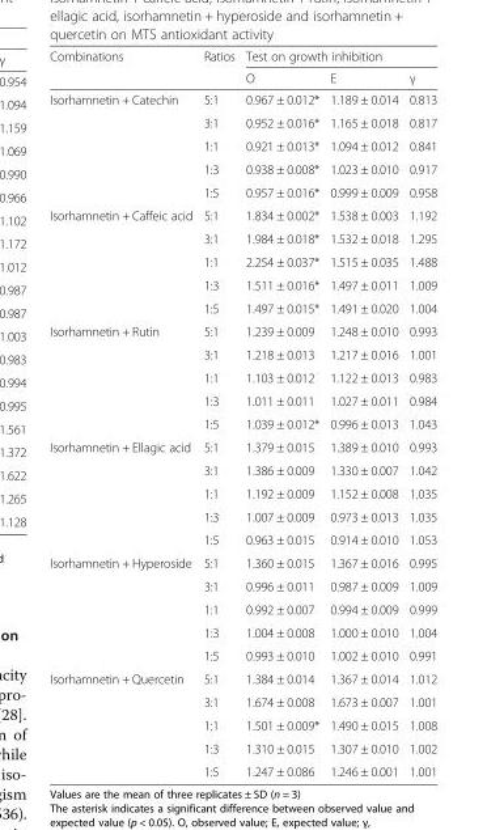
<table><thead><tr><td rowspan="2">Combinations</td><td rowspan="2">Ratios</td><td colspan="3">Test on growth inhibition</td></tr><tr><td>O</td><td>E</td><td>γ</td></tr></thead><tbody><tr><td rowspan="5">Isorhamnetin + Catechin</td><td>5:1</td><td>0.967 ± 0.012*</td><td>1.189 ± 0.014</td><td>0.813</td></tr><tr><td>3:1</td><td>0.952 ± 0.016*</td><td>1.165 ± 0.018</td><td>0.817</td></tr><tr><td>1:1</td><td>0.921 ± 0.013*</td><td>1.094 ± 0.012</td><td>0.841</td></tr><tr><td>1:3</td><td>0.938 ± 0.008*</td><td>1.023 ± 0.010</td><td>0.917</td></tr><tr><td>1:5</td><td>0.957 ± 0.016*</td><td>0.999 ± 0.009</td><td>0.958</td></tr><tr><td rowspan="5">Isorhamnetin + Caffeic acid</td><td>5:1</td><td>1.834 ± 0.002*</td><td>1.538 ± 0.003</td><td>1.192</td></tr><tr><td>3:1</td><td>1.984 ± 0.018*</td><td>1.532 ± 0.018</td><td>1.295</td></tr><tr><td>1:1</td><td>2.254 ± 0.037*</td><td>1.515 ± 0.035</td><td>1.488</td></tr><tr><td>1:3</td><td>1.511 ± 0.016*</td><td>1.497 ± 0.011</td><td>1.009</td></tr><tr><td>1:5</td><td>1.497 ± 0.015*</td><td>1.491 ± 0.020</td><td>1.004</td></tr><tr><td rowspan="5">Isorhamnetin + Rutin</td><td>5:1</td><td>1.239 ± 0.009</td><td>1.248 ± 0.010</td><td>0.993</td></tr><tr><td>3:1</td><td>1.218 ± 0.013</td><td>1.217 ± 0.016</td><td>1.001</td></tr><tr><td>1:1</td><td>1.103 ± 0.012</td><td>1.122 ± 0.013</td><td>0.983</td></tr><tr><td>1:3</td><td>1.011 ± 0.011</td><td>1.027 ± 0.011</td><td>0.984</td></tr><tr><td>1:5</td><td>1.039 ± 0.012*</td><td>0.996 ± 0.013</td><td>1.043</td></tr><tr><td rowspan="5">Isorhamnetin + Ellagic acid</td><td>5:1</td><td>1.379 ± 0.015</td><td>1.389 ± 0.010</td><td>0.993</td></tr><tr><td>3:1</td><td>1.386 ± 0.009</td><td>1.330 ± 0.007</td><td>1.042</td></tr><tr><td>1:1</td><td>1.192 ± 0.009</td><td>1.152 ± 0.008</td><td>1.035</td></tr><tr><td>1:3</td><td>1.007 ± 0.009</td><td>0.973 ± 0.013</td><td>1.035</td></tr><tr><td>1:5</td><td>0.963 ± 0.015</td><td>0.914 ± 0.010</td><td>1.053</td></tr><tr><td rowspan="5">Isorhamnetin + Hyperoside</td><td>5:1</td><td>1.360 ± 0.015</td><td>1.367 ± 0.016</td><td>0.995</td></tr><tr><td>3:1</td><td>0.996 ± 0.011</td><td>0.987 ± 0.009</td><td>1.009</td></tr><tr><td>1:1</td><td>0.992 ± 0.007</td><td>0.994 ± 0.009</td><td>0.999</td></tr><tr><td>1:3</td><td>1.004 ± 0.008</td><td>1.000 ± 0.010</td><td>1.004</td></tr><tr><td>1:5</td><td>0.993 ± 0.010</td><td>1.002 ± 0.010</td><td>0.991</td></tr><tr><td rowspan="5">Isorhamnetin + Quercetin</td><td>5:1</td><td>1.384 ± 0.014</td><td>1.367 ± 0.014</td><td>1.012</td></tr><tr><td>3:1</td><td>1.674 ± 0.008</td><td>1.673 ± 0.007</td><td>1.001</td></tr><tr><td>1:1</td><td>1.501 ± 0.009*</td><td>1.490 ± 0.015</td><td>1.008</td></tr><tr><td>1:3</td><td>1.310 ± 0.015</td><td>1.307 ± 0.010</td><td>1.002</td></tr><tr><td>1:5</td><td>1.247 ± 0.086</td><td>1.246 ± 0.001</td><td>1.001</td></tr></tbody></table>